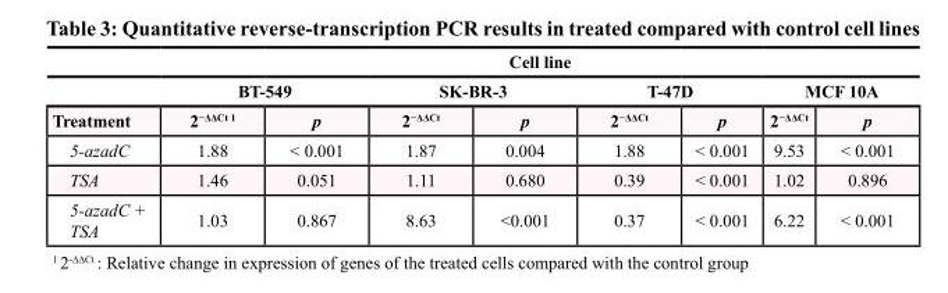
<table><thead><tr><td rowspan="3">Treatment</td><td colspan="8">Cell line</td></tr><tr><td colspan="2">BT-549</td><td colspan="2">SK-BR-3</td><td colspan="2">T-47D</td><td colspan="2">MCF 10A</td></tr><tr><td>2<sup>−ΔΔCt 1</sup></td><td>p</td><td>2<sup>−ΔΔCt</sup></td><td>p</td><td>2<sup>−ΔΔCt</sup></td><td>p</td><td>2<sup>−ΔΔCt</sup></td><td>p</td></tr></thead><tbody><tr><td>5-azadC</td><td>1.88</td><td>&lt; 0.001</td><td>1.87</td><td>0.004</td><td>1.88</td><td>&lt; 0.001</td><td>9.53</td><td>&lt; 0.001</td></tr><tr><td>TSA</td><td>1.46</td><td>0.051</td><td>1.11</td><td>0.680</td><td>0.39</td><td>&lt; 0.001</td><td>1.02</td><td>0.896</td></tr><tr><td>5-azadC + TSA</td><td>1.03</td><td>0.867</td><td>8.63</td><td>&lt;0.001</td><td>0.37</td><td>&lt; 0.001</td><td>6.22</td><td>&lt; 0.001</td></tr></tbody></table>